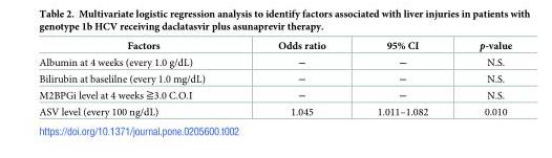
<table><thead><tr><td>Factors</td><td>Odds ratio</td><td>95% CI</td><td>p-value</td></tr></thead><tbody><tr><td>Albumin at 4 weeks (every 1.0 g/dL)</td><td>―</td><td>―</td><td>N.S.</td></tr><tr><td>Bilirubin at baselilne (every 1.0 mg/dL)</td><td>―</td><td>―</td><td>N.S.</td></tr><tr><td>M2BPGi level at 4 weeks ≧3.0 C.O.I</td><td>―</td><td>―</td><td>N.S.</td></tr><tr><td>ASV level (every 100 ng/dL)</td><td>1.045</td><td>1.011–1.082</td><td>0.010</td></tr></tbody></table>